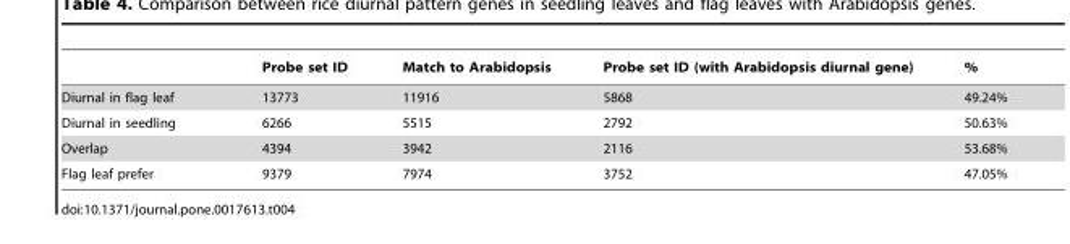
<table><thead><tr><td></td><td>Probe set ID</td><td>Match to Arabidopsis</td><td>Probe set ID (with Arabidopsis diurnal gene)</td><td>%</td></tr></thead><tbody><tr><td>Diurnal in flag leaf</td><td>13773</td><td>11916</td><td>5868</td><td>49.24%</td></tr><tr><td>Diurnal in seedling</td><td>6266</td><td>5515</td><td>2792</td><td>50.63%</td></tr><tr><td>Overlap</td><td>4394</td><td>3942</td><td>2116</td><td>53.68%</td></tr><tr><td>Flag leaf prefer</td><td>9379</td><td>7974</td><td>3752</td><td>47.05%</td></tr></tbody></table>